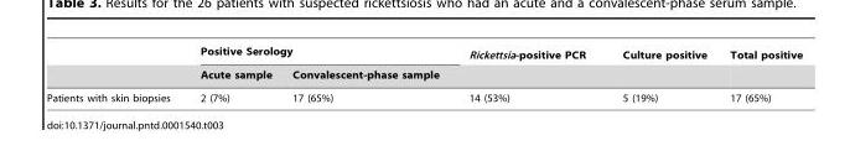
<table><thead><tr><td rowspan="2"></td><td colspan="2">Positive Serology</td><td rowspan="2">Rickettsia-positive PCR</td><td rowspan="2">Culture positive</td><td rowspan="2">Total positive</td></tr><tr><td>Acute sample</td><td>Convalescent-phase sample</td></tr></thead><tbody><tr><td>Patients with skin biopsies</td><td>2 (7%)</td><td>17 (65%)</td><td>14 (53%)</td><td>5 (19%)</td><td>17 (65%)</td></tr></tbody></table>